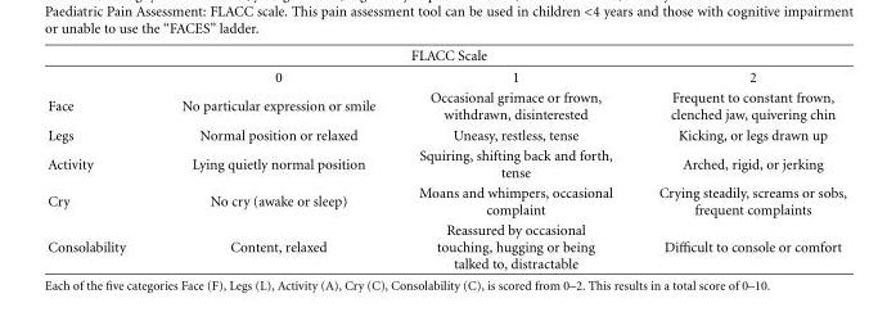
<table><thead><tr><td colspan="4">FLACC Scale</td></tr><tr><td></td><td>0</td><td>1</td><td>2</td></tr></thead><tbody><tr><td>Face</td><td>No particular expression or smile</td><td>Occasional grimace or frown, withdrawn, disinterested</td><td>Frequent to constant frown, clenched jaw, quivering chin</td></tr><tr><td>Legs</td><td>Normal position or relaxed</td><td>Uneasy, restless, tense</td><td>Kicking, or legs drawn up</td></tr><tr><td>Activity</td><td>Lying quietly normal position</td><td>Squiring, shifting back and forth, tense</td><td>Arched, rigid, or jerking</td></tr><tr><td>Cry</td><td>No cry (awake or sleep)</td><td>Moans and whimpers, occasional complaint</td><td>Crying steadily, screams or sobs, frequent complaints</td></tr><tr><td>Consolability</td><td>Content, relaxed</td><td>Reassured by occasional touching, hugging or being talked to, distractable</td><td>Difficult to console or comfort</td></tr></tbody></table>